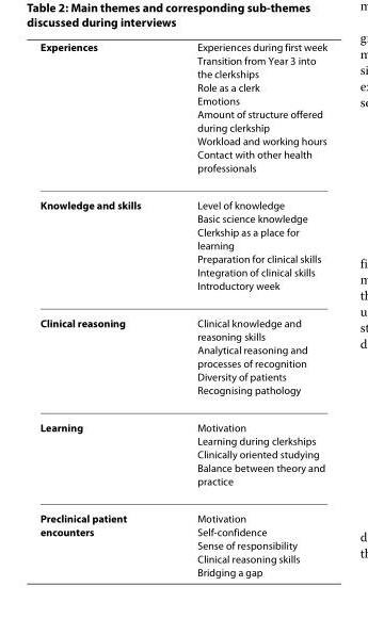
<table><thead><tr><td>Experiences</td><td>Experiences during first week Transition from Year 3 into the clerkships Role as a clerk Emotions Amount of structure offered during clerkship Workload and working hours Contact with other health professionals</td></tr></thead><tbody><tr><td>Knowledge and skills</td><td>Level of knowledge Basic science knowledge Clerkship as a place for learning Preparation for clinical skills Integration of clinical skills Introductory week</td></tr><tr><td>Clinical reasoning</td><td>Clinical knowledge and reasoning skills Analytical reasoning and processes of recognition Diversity of patients Recognising pathology</td></tr><tr><td>Learning</td><td>Motivation Learning during clerkships Clinically oriented studying Balance between theory and practice</td></tr><tr><td>Preclinical patient encounters</td><td>Motivation Self-confidence Sense of responsibility Clinical reasoning skills Bridging a gap</td></tr></tbody></table>